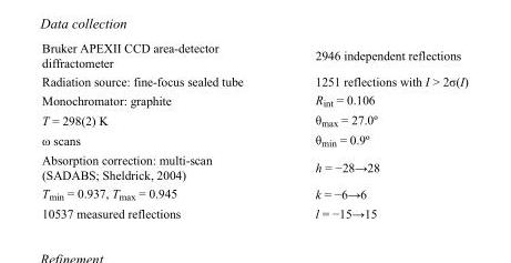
<table><tbody><tr><td>Bruker APEXII CCD area-detector diffractometer</td><td>2946 independent reflections</td></tr><tr><td>Radiation source: fine-focus sealed tube</td><td>1251 reflections with I &gt; 2σ(I)</td></tr><tr><td>Monochromator: graphite</td><td>R<sub>int</sub> = 0.106</td></tr><tr><td>T = 298(2) K</td><td>θ<sub>max</sub> = 27.0º</td></tr><tr><td>ω scans</td><td>θ<sub>min</sub> = 0.9º</td></tr><tr><td>Absorption correction: multi-scan (SADABS; Sheldrick, 2004)</td><td>h = −28→28</td></tr><tr><td>T<sub>min</sub> = 0.937, T<sub>max</sub> = 0.945</td><td>k = −6→6</td></tr><tr><td>10537 measured reflections</td><td>l = −15→15</td></tr></tbody></table>